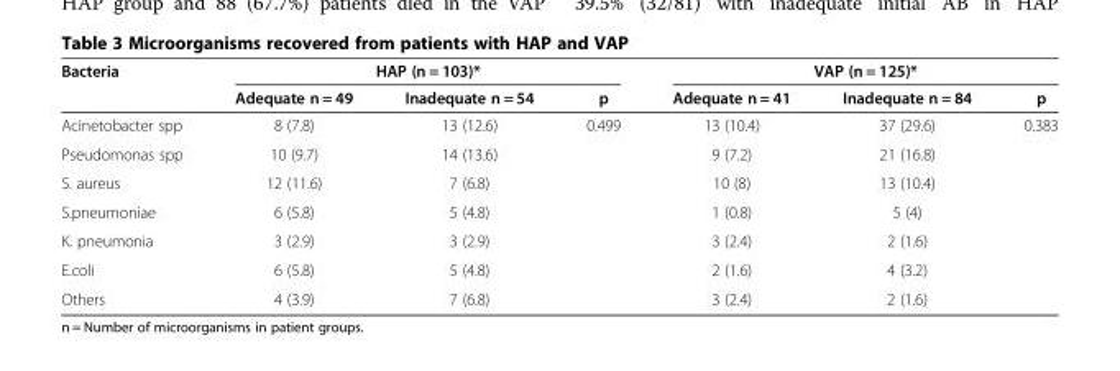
<table><thead><tr><td rowspan="2">Bacteria</td><td rowspan="2">Adequate n = 49</td><td rowspan="2">HAP (n = 103)* Inadequate n = 54</td><td rowspan="2">p</td><td rowspan="2">Adequate n = 41</td><td rowspan="2">VAP (n = 125)* Inadequate n = 84</td><td rowspan="2">p</td></tr><tr></tr></thead><tbody><tr><td>Acinetobacter spp</td><td>8 (7.8)</td><td>13 (12.6)</td><td>0.499</td><td>13 (10.4)</td><td>37 (29.6)</td><td>0.383</td></tr><tr><td>Pseudomonas spp</td><td>10 (9.7)</td><td>14 (13.6)</td><td></td><td>9 (7.2)</td><td>21 (16.8)</td><td></td></tr><tr><td>S. aureus</td><td>12 (11.6)</td><td>7 (6.8)</td><td></td><td>10 (8)</td><td>13 (10.4)</td><td></td></tr><tr><td>S.pneumoniae</td><td>6 (5.8)</td><td>5 (4.8)</td><td></td><td>1 (0.8)</td><td>5 (4)</td><td></td></tr><tr><td>K. pneumonia</td><td>3 (2.9)</td><td>3 (2.9)</td><td></td><td>3 (2.4)</td><td>2 (1.6)</td><td></td></tr><tr><td>E.coli</td><td>6 (5.8)</td><td>5 (4.8)</td><td></td><td>2 (1.6)</td><td>4 (3.2)</td><td></td></tr><tr><td>Others</td><td>4 (3.9)</td><td>7 (6.8)</td><td></td><td>3 (2.4)</td><td>2 (1.6)</td><td></td></tr></tbody></table>